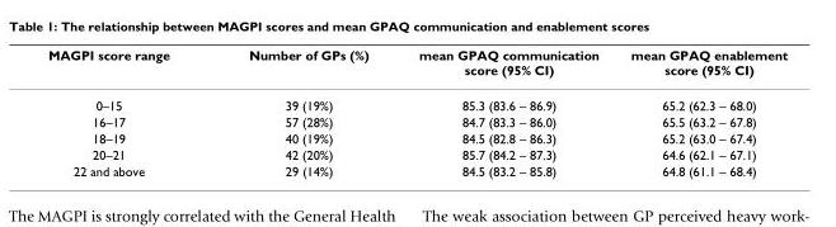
<table><thead><tr><td>MAGPI score range</td><td>Number of GPs (%)</td><td>mean GPAQ communication score (95% CI)</td><td>mean GPAQ enablement score (95% CI)</td></tr></thead><tbody><tr><td>0–15</td><td>39 (19%)</td><td>85.3 (83.6 – 86.9)</td><td>65.2 (62.3 – 68.0)</td></tr><tr><td>16–17</td><td>57 (28%)</td><td>84.7 (83.3 – 86.0)</td><td>65.5 (63.2 – 67.8)</td></tr><tr><td>18–19</td><td>40 (19%)</td><td>84.5 (82.8 – 86.3)</td><td>65.2 (63.0 – 67.4)</td></tr><tr><td>20–21</td><td>42 (20%)</td><td>85.7 (84.2 – 87.3)</td><td>64.6 (62.1 – 67.1)</td></tr><tr><td>22 and above</td><td>29 (14%)</td><td>84.5 (83.2 – 85.8)</td><td>64.8 (61.1 – 68.4)</td></tr></tbody></table>